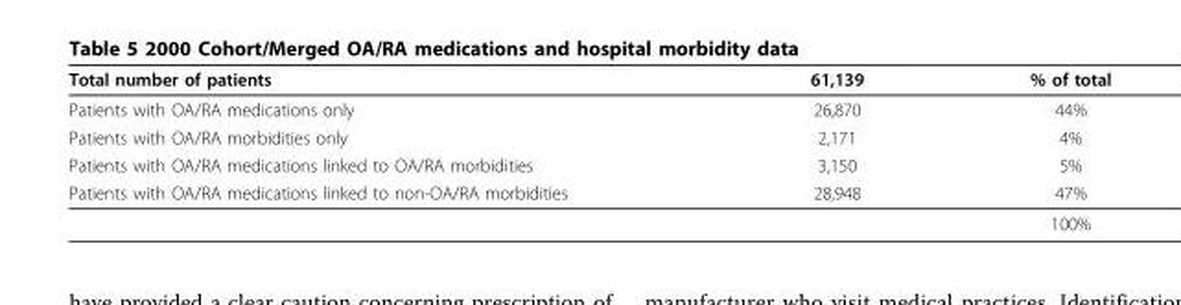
<table><thead><tr><td>Total number of patients</td><td>61,139</td><td>% of total</td></tr></thead><tbody><tr><td>Patients with OA/RA medications only</td><td>26,870</td><td>44%</td></tr><tr><td>Patients with OA/RA morbidities only</td><td>2,171</td><td>4%</td></tr><tr><td>Patients with OA/RA medications linked to OA/RA morbidities</td><td>3,150</td><td>5%</td></tr><tr><td rowspan="2">Patients with OA/RA medications linked to non-OA/RA morbidities</td><td>28,948</td><td>47%</td></tr><tr><td></td><td>100%</td></tr></tbody></table>